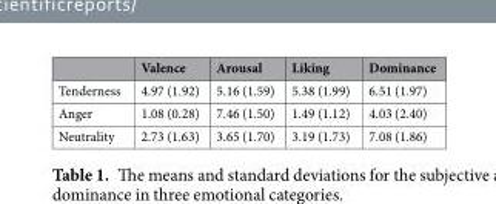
<table><thead><tr><td></td><td>Valence</td><td>Arousal</td><td>Liking</td><td>Dominance</td></tr></thead><tbody><tr><td>Tenderness</td><td>4.97 (1.92)</td><td>5.16 (1.59)</td><td>5.38 (1.99)</td><td>6.51 (1.97)</td></tr><tr><td>Anger</td><td>1.08 (0.28)</td><td>7.46 (1.50)</td><td>1.49 (1.12)</td><td>4.03 (2.40)</td></tr><tr><td>Neutrality</td><td>2.73 (1.63)</td><td>3.65 (1.70)</td><td>3.19 (1.73)</td><td>7.08 (1.86)</td></tr></tbody></table>